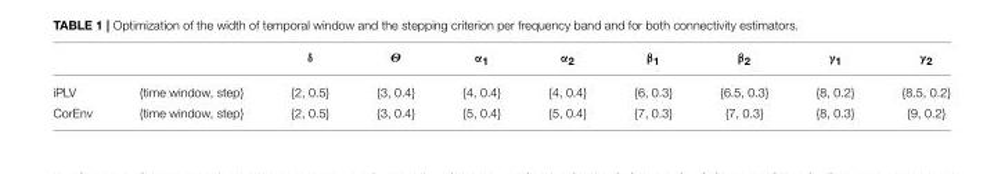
<table><thead><tr><td></td><td></td><td>δ</td><td>Θ</td><td>α<sub>1</sub></td><td>α<sub>2</sub></td><td>β<sub>1</sub></td><td>β<sub>2</sub></td><td>γ<sub>1</sub></td><td>γ<sub>2</sub></td></tr></thead><tbody><tr><td>iPLV</td><td>{time window, step}</td><td>{2, 0.5}</td><td>{3, 0.4}</td><td>{4, 0.4}</td><td>{4, 0.4}</td><td>{6, 0.3}</td><td>{6.5, 0.3}</td><td>{8, 0.2}</td><td>{8.5, 0.2}</td></tr><tr><td>CorEnv</td><td>{time window, step}</td><td>{2, 0.5}</td><td>{3, 0.4}</td><td>{5, 0.4}</td><td>{5, 0.4}</td><td>{7, 0.3}</td><td>{7, 0.3}</td><td>{8, 0.3}</td><td>{9, 0.2}</td></tr></tbody></table>